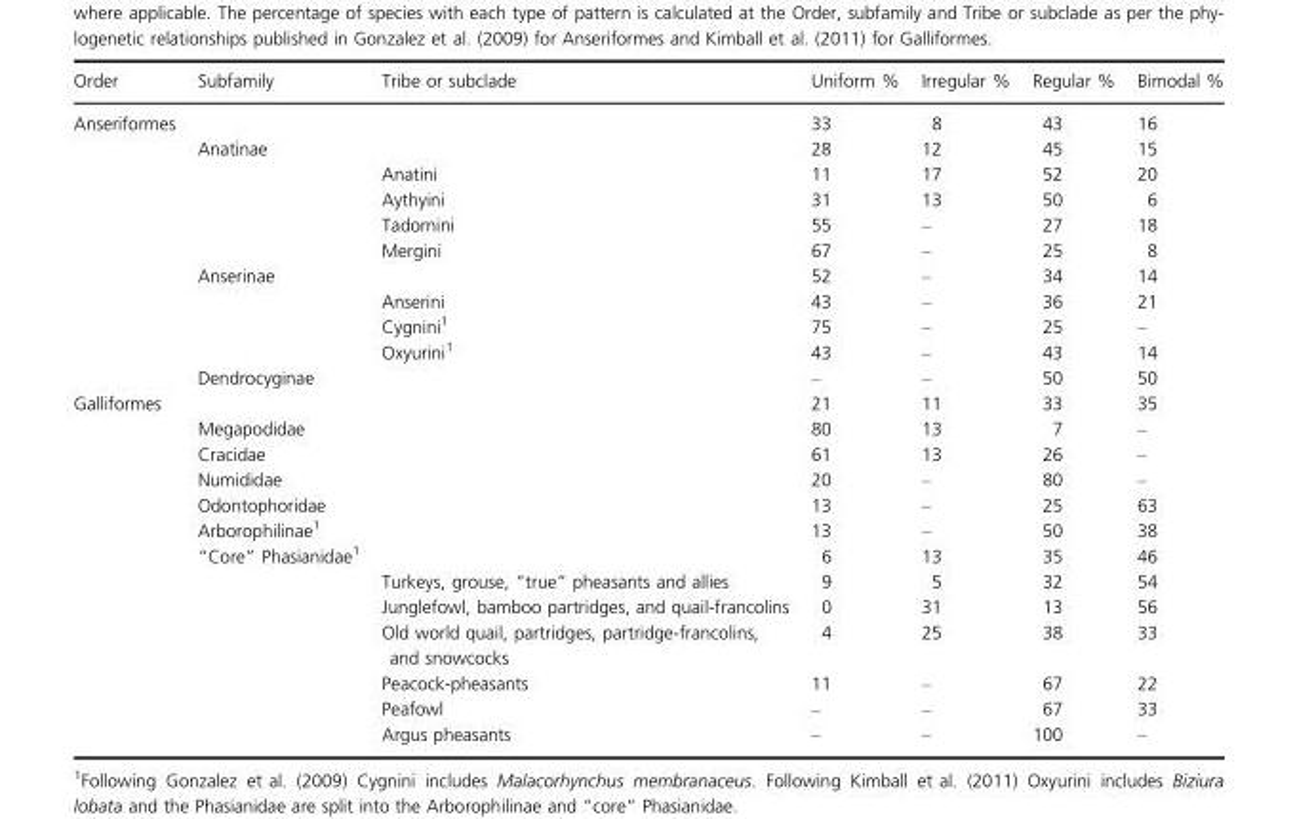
<table><thead><tr><td>Order</td><td>Subfamily</td><td>Tribe or subclade</td><td>Uniform %</td><td>Irregular %</td><td>Regular %</td><td>Bimodal %</td></tr></thead><tbody><tr><td rowspan="11">Anseriformes</td><td></td><td></td><td>33</td><td>8</td><td>43</td><td>16</td></tr><tr><td>Anatinae</td><td></td><td>28</td><td>12</td><td>45</td><td>15</td></tr><tr><td></td><td>Anatini</td><td>11</td><td>17</td><td>52</td><td>20</td></tr><tr><td></td><td>Aythyini</td><td>31</td><td>13</td><td>50</td><td>6</td></tr><tr><td></td><td>Tadornini</td><td>55</td><td>–</td><td>27</td><td>18</td></tr><tr><td></td><td>Mergini</td><td>67</td><td>–</td><td>25</td><td>8</td></tr><tr><td>Anserinae</td><td></td><td>52</td><td>–</td><td>34</td><td>14</td></tr><tr><td></td><td>Anserini</td><td>43</td><td>–</td><td>36</td><td>21</td></tr><tr><td></td><td>Cygnini<sup>1</sup></td><td>75</td><td>–</td><td>25</td><td>–</td></tr><tr><td></td><td>Oxyurini<sup>1</sup></td><td>43</td><td>–</td><td>43</td><td>14</td></tr><tr><td>Dendrocyginae</td><td></td><td>–</td><td>–</td><td>50</td><td>50</td></tr><tr><td rowspan="13">Galliformes</td><td></td><td></td><td>21</td><td>11</td><td>33</td><td>35</td></tr><tr><td>Megapodidae</td><td></td><td>80</td><td>13</td><td>7</td><td>–</td></tr><tr><td>Cracidae</td><td></td><td>61</td><td>13</td><td>26</td><td>–</td></tr><tr><td>Numididae</td><td></td><td>20</td><td>–</td><td>80</td><td>–</td></tr><tr><td>Odontophoridae</td><td></td><td>13</td><td>–</td><td>25</td><td>63</td></tr><tr><td>Arborophilinae<sup>1</sup></td><td></td><td>13</td><td>–</td><td>50</td><td>38</td></tr><tr><td>“Core” Phasianidae<sup>1</sup></td><td></td><td>6</td><td>13</td><td>35</td><td>46</td></tr><tr><td></td><td>Turkeys, grouse, “true” pheasants and allies</td><td>9</td><td>5</td><td>32</td><td>54</td></tr><tr><td></td><td>Junglefowl, bamboo partridges, and quail-francolins</td><td>0</td><td>31</td><td>13</td><td>56</td></tr><tr><td></td><td>Old world quail, partridges, partridge-francolins, and snowcocks</td><td>4</td><td>25</td><td>38</td><td>33</td></tr><tr><td></td><td>Peacock-pheasants</td><td>11</td><td>–</td><td>67</td><td>22</td></tr><tr><td></td><td>Peafowl</td><td>–</td><td>–</td><td>67</td><td>33</td></tr><tr><td></td><td>Argus pheasants</td><td>–</td><td>–</td><td>100</td><td>–</td></tr></tbody></table>